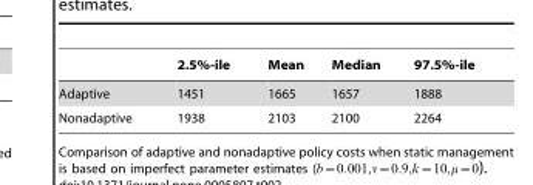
<table><thead><tr><td></td><td>2.5%-ile</td><td>Mean</td><td>Median</td><td>97.5%-ile</td></tr></thead><tbody><tr><td>Adaptive</td><td>1451</td><td>1665</td><td>1657</td><td>1888</td></tr><tr><td>Nonadaptive</td><td>1938</td><td>2103</td><td>2100</td><td>2264</td></tr></tbody></table>